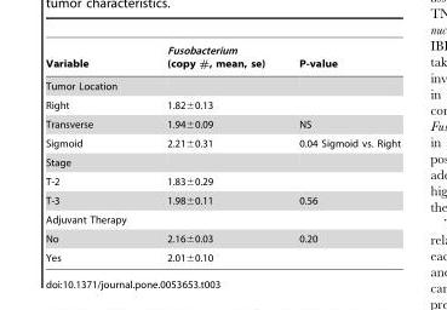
<table><thead><tr><td>Variable</td><td>Fusobacterium (copy #, mean, se)</td><td>P-value</td></tr></thead><tbody><tr><td colspan="3">Tumor Location</td></tr><tr><td>Right</td><td>1.82±0.13</td><td></td></tr><tr><td>Transverse</td><td>1.94±0.09</td><td>NS</td></tr><tr><td>Sigmoid</td><td>2.21±0.31</td><td>0.04 Sigmoid vs. Right</td></tr><tr><td colspan="3">Stage</td></tr><tr><td>T-2</td><td>1.83±0.29</td><td></td></tr><tr><td>T-3</td><td>1.98±0.11</td><td>0.56</td></tr><tr><td colspan="3">Adjuvant Therapy</td></tr><tr><td>No</td><td>2.16±0.03</td><td>0.20</td></tr><tr><td>Yes</td><td>2.01±0.10</td><td></td></tr></tbody></table>